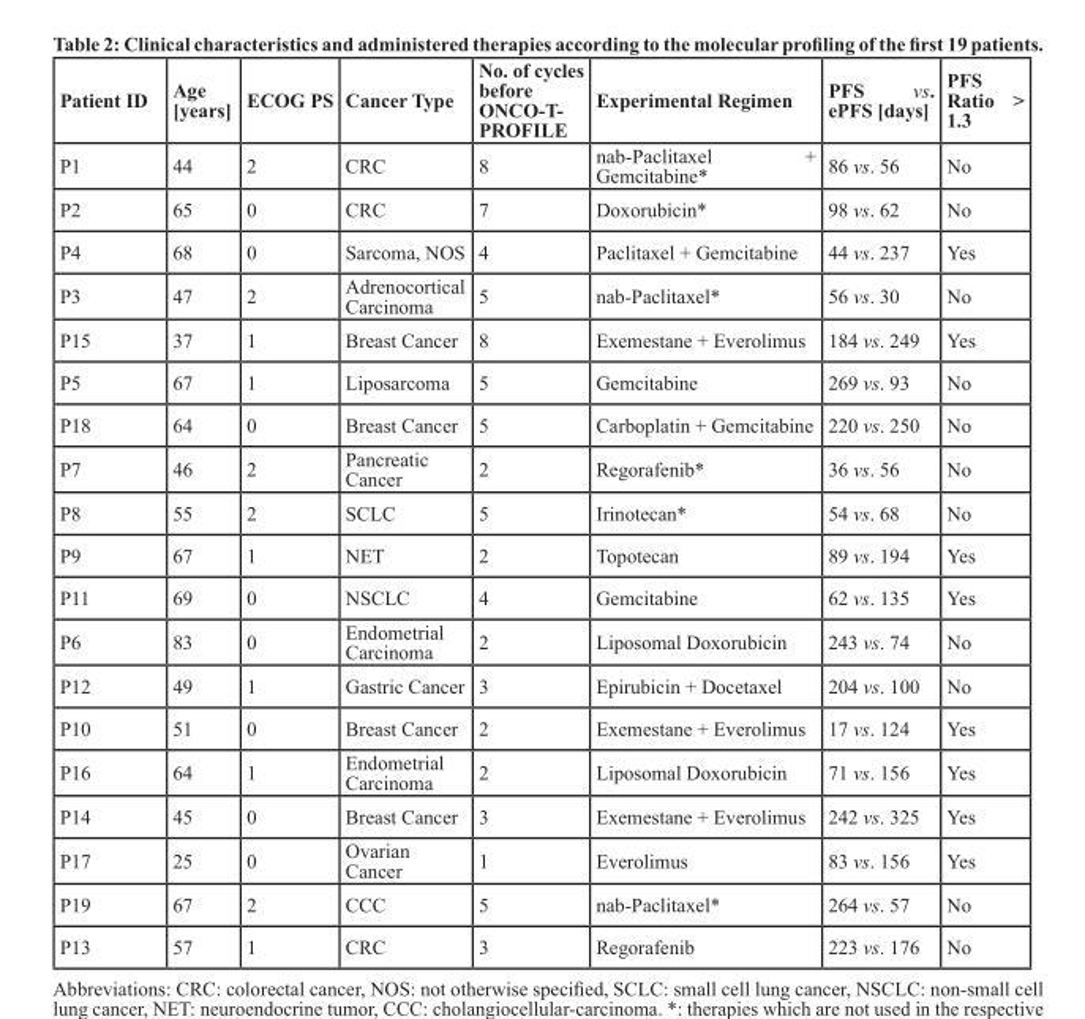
<table><thead><tr><td>Patient ID</td><td>Age [years]</td><td>ECOG PS</td><td>Cancer Type</td><td>No. of cycles before ONCO-T- PROFILE</td><td>Experimental Regimen</td><td>PFS vs. ePFS [days]</td><td>PFS Ratio &gt; 1.3</td></tr></thead><tbody><tr><td>P1</td><td>44</td><td>2</td><td>CRC</td><td>8</td><td>nab-Paclitaxel + Gemcitabine*</td><td>86 vs. 56</td><td>No</td></tr><tr><td>P2</td><td>65</td><td>0</td><td>CRC</td><td>7</td><td>Doxorubicin*</td><td>98 vs. 62</td><td>No</td></tr><tr><td>P4</td><td>68</td><td>0</td><td>Sarcoma, NOS</td><td>4</td><td>Paclitaxel + Gemcitabine</td><td>44 vs. 237</td><td>Yes</td></tr><tr><td>P3</td><td>47</td><td>2</td><td>Adrenocortical Carcinoma</td><td>5</td><td>nab-Paclitaxel*</td><td>56 vs. 30</td><td>No</td></tr><tr><td>P15</td><td>37</td><td>1</td><td>Breast Cancer</td><td>8</td><td>Exemestane + Everolimus</td><td>184 vs. 249</td><td>Yes</td></tr><tr><td>P5</td><td>67</td><td>1</td><td>Liposarcoma</td><td>5</td><td>Gemcitabine</td><td>269 vs. 93</td><td>No</td></tr><tr><td>P18</td><td>64</td><td>0</td><td>Breast Cancer</td><td>5</td><td>Carboplatin + Gemcitabine</td><td>220 vs. 250</td><td>No</td></tr><tr><td>P7</td><td>46</td><td>2</td><td>Pancreatic Cancer</td><td>2</td><td>Regorafenib*</td><td>36 vs. 56</td><td>No</td></tr><tr><td>P8</td><td>55</td><td>2</td><td>SCLC</td><td>5</td><td>Irinotecan*</td><td>54 vs. 68</td><td>No</td></tr><tr><td>P9</td><td>67</td><td>1</td><td>NET</td><td>2</td><td>Topotecan</td><td>89 vs. 194</td><td>Yes</td></tr><tr><td>P11</td><td>69</td><td>0</td><td>NSCLC</td><td>4</td><td>Gemcitabine</td><td>62 vs. 135</td><td>Yes</td></tr><tr><td>P6</td><td>83</td><td>0</td><td>Endometrial Carcinoma</td><td>2</td><td>Liposomal Doxorubicin</td><td>243 vs. 74</td><td>No</td></tr><tr><td>P12</td><td>49</td><td>1</td><td>Gastric Cancer</td><td>3</td><td>Epirubicin + Docetaxel</td><td>204 vs. 100</td><td>No</td></tr><tr><td>P10</td><td>51</td><td>0</td><td>Breast Cancer</td><td>2</td><td>Exemestane + Everolimus</td><td>17 vs. 124</td><td>Yes</td></tr><tr><td>P16</td><td>64</td><td>1</td><td>Endometrial Carcinoma</td><td>2</td><td>Liposomal Doxorubicin</td><td>71 vs. 156</td><td>Yes</td></tr><tr><td>P14</td><td>45</td><td>0</td><td>Breast Cancer</td><td>3</td><td>Exemestane + Everolimus</td><td>242 vs. 325</td><td>Yes</td></tr><tr><td>P17</td><td>25</td><td>0</td><td>Ovarian Cancer</td><td>1</td><td>Everolimus</td><td>83 vs. 156</td><td>Yes</td></tr><tr><td>P19</td><td>67</td><td>2</td><td>CCC</td><td>5</td><td>nab-Paclitaxel*</td><td>264 vs. 57</td><td>No</td></tr><tr><td>P13</td><td>57</td><td>1</td><td>CRC</td><td>3</td><td>Regorafenib</td><td>223 vs. 176</td><td>No</td></tr></tbody></table>